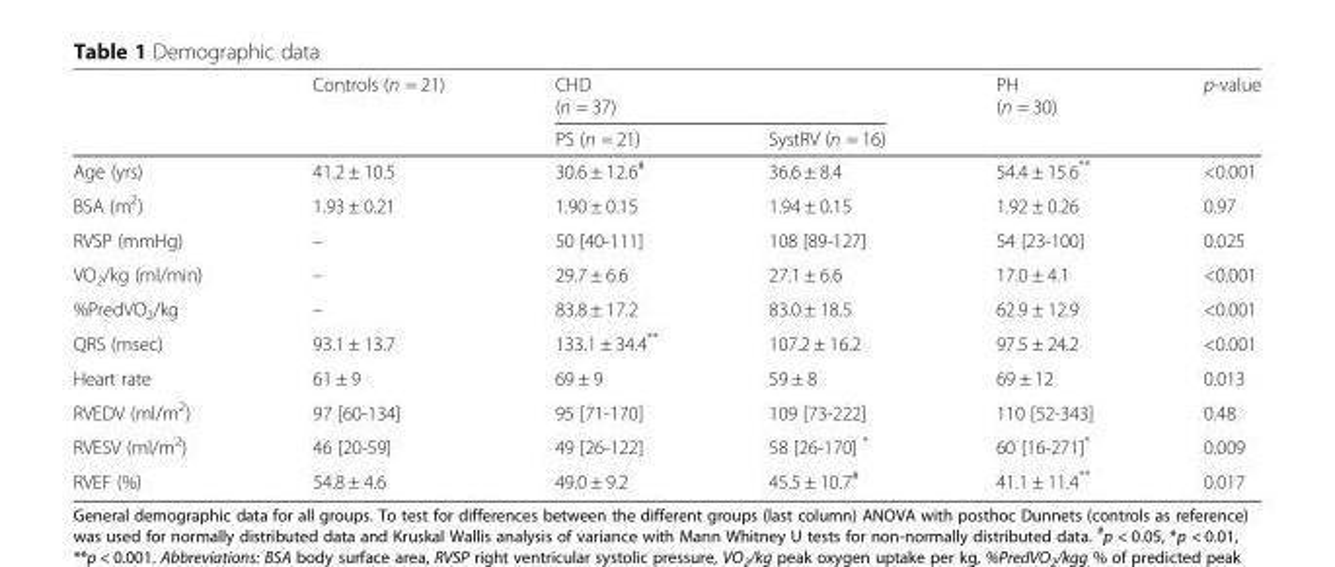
<table><thead><tr><td rowspan="2"></td><td rowspan="2">Controls (n = 21)</td><td colspan="2">CHD (n = 37)</td><td rowspan="2">PH (n = 30)</td><td rowspan="2">p-value</td></tr><tr><td>PS (n = 21)</td><td>SystRV (n = 16)</td></tr></thead><tbody><tr><td>Age (yrs)</td><td>41.2 ± 10.5</td><td>30.6 ± 12.6<sup>#</sup></td><td>36.6 ± 8.4</td><td>54.4 ± 15.6**</td><td>&lt;0.001</td></tr><tr><td>BSA (m<sup>2</sup>)</td><td>1.93 ± 0.21</td><td>1.90 ± 0.15</td><td>1.94 ± 0.15</td><td>1.92 ± 0.26</td><td>0.97</td></tr><tr><td>RVSP (mmHg)</td><td>–</td><td>50 [40-111]</td><td>108 [89-127]</td><td>54 [23-100]</td><td>0.025</td></tr><tr><td>VO<sub>2</sub>/kg (ml/min)</td><td>–</td><td>29.7 ± 6.6</td><td>27.1 ± 6.6</td><td>17.0 ± 4.1</td><td>&lt;0.001</td></tr><tr><td>%PredVO<sub>2</sub>/kg</td><td>–</td><td>83.8 ± 17.2</td><td>83.0 ± 18.5</td><td>62.9 ± 12.9</td><td>&lt;0.001</td></tr><tr><td>QRS (msec)</td><td>93.1 ± 13.7</td><td>133.1 ± 34.4**</td><td>107.2 ± 16.2</td><td>97.5 ± 24.2</td><td>&lt;0.001</td></tr><tr><td>Heart rate</td><td>61 ± 9</td><td>69 ± 9</td><td>59 ± 8</td><td>69 ± 12</td><td>0.013</td></tr><tr><td>RVEDV (ml/m<sup>2</sup>)</td><td>97 [60-134]</td><td>95 [71-170]</td><td>109 [73-222]</td><td>110 [52-343]</td><td>0.48</td></tr><tr><td>RVESV (ml/m<sup>2</sup>)</td><td>46 [20-59]</td><td>49 [26-122]</td><td>58 [26-170] *</td><td>60 [16-271]*</td><td>0.009</td></tr><tr><td>RVEF (%)</td><td>54.8 ± 4.6</td><td>49.0 ± 9.2</td><td>45.5 ± 10.7<sup>#</sup></td><td>41.1 ± 11.4**</td><td>0.017</td></tr></tbody></table>